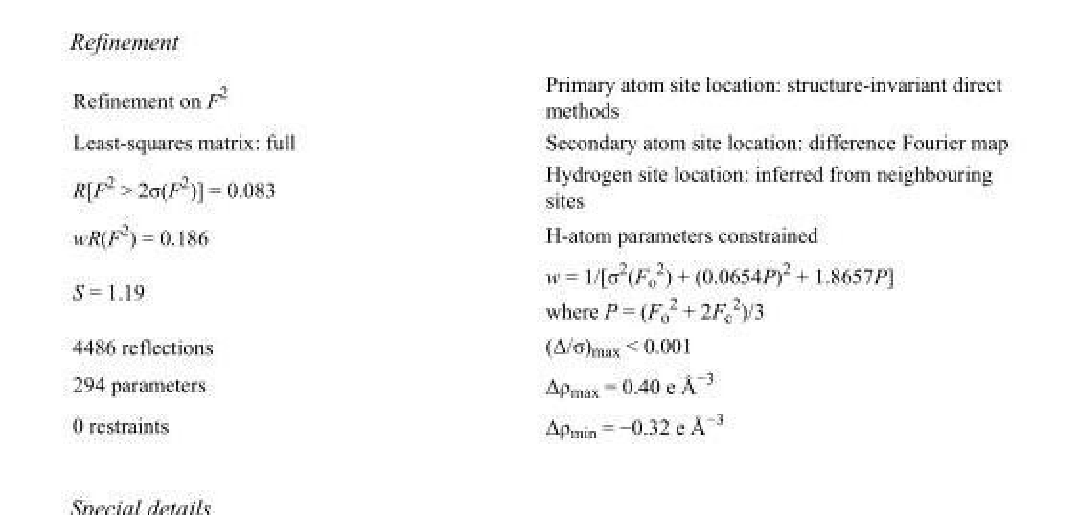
<table><tbody><tr><td>Refinement on F<sup>2</sup></td><td>Primary atom site location: structure-invariant direct methods</td></tr><tr><td>Least-squares matrix: full</td><td>Secondary atom site location: difference Fourier map</td></tr><tr><td>R[F<sup>2</sup> &gt; 2σ(F<sup>2</sup>)] = 0.083</td><td>Hydrogen site location: inferred from neighbouring sites</td></tr><tr><td>wR(F<sup>2</sup>) = 0.186</td><td>H-atom parameters constrained</td></tr><tr><td>S = 1.19</td><td>w = 1/[σ<sup>2</sup>(F<sub>o</sub> <sup>2</sup>) + (0.0654P)<sup>2</sup> + 1.8657P] where P = (F<sub>o</sub> <sup>2</sup> + 2F<sub>c</sub> <sup>2</sup>)/3</td></tr><tr><td>4486 reflections</td><td>(Δ/σ)<sub>max</sub> &lt; 0.001</td></tr><tr><td>294 parameters</td><td>Δρ<sub>max</sub> = 0.40 e Å<sup>−3</sup></td></tr><tr><td>0 restraints</td><td>Δρ<sub>min</sub> = −0.32 e Å<sup>−3</sup></td></tr></tbody></table>